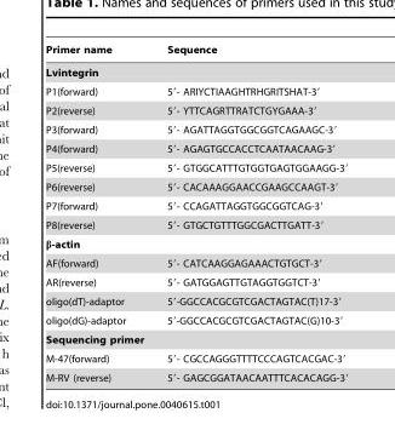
<table><thead><tr><td>Primer name</td><td>Sequence</td></tr></thead><tbody><tr><td colspan="2">Lvintegrin</td></tr><tr><td>P1(forward)</td><td>5′- ARIYCTIAAGHTRHGRITSHAT-3′</td></tr><tr><td>P2(reverse)</td><td>5′- YTTCAGRTTRATCTGYGAAA-3′</td></tr><tr><td>P3(forward)</td><td>5′- AGATTAGGTGGCGGTCAGAAGC-3′</td></tr><tr><td>P4(forward)</td><td>5′- AGAGTGCCACCTCAATAACAAG-3′</td></tr><tr><td>P5(reverse)</td><td>5′- GTGGCATTTGTGGTGAGTGGAAGG-3′</td></tr><tr><td>P6(reverse)</td><td>5′- CACAAAGGAACCGAAGCCAAGT-3′</td></tr><tr><td>P7(forward)</td><td>5′- CCAGATTAGGTGGCGGTCAG-3′</td></tr><tr><td>P8(reverse)</td><td>5′- GTGCTGTTTGGCGACTTGATT-3′</td></tr><tr><td colspan="2">β-actin</td></tr><tr><td>AF(forward)</td><td>5′- CATCAAGGAGAAACTGTGCT-3′</td></tr><tr><td>AR(reverse)</td><td>5′- GATGGAGTTGTAGGTGGTCT-3′</td></tr><tr><td>oligo(dT)-adaptor</td><td>5′-GGCCACGCGTCGACTAGTAC(T)17-3′</td></tr><tr><td>oligo(dG)-adaptor</td><td>5′-GGCCACGCGTCGACTAGTAC(G)10-3′</td></tr><tr><td colspan="2">Sequencing primer</td></tr><tr><td>M-47(forward)</td><td>5′- CGCCAGGGTTTTCCCAGTCACGAC-3′</td></tr><tr><td>M-RV (reverse)</td><td>5′- GAGCGGATAACAATTTCACACAGG-3′</td></tr></tbody></table>